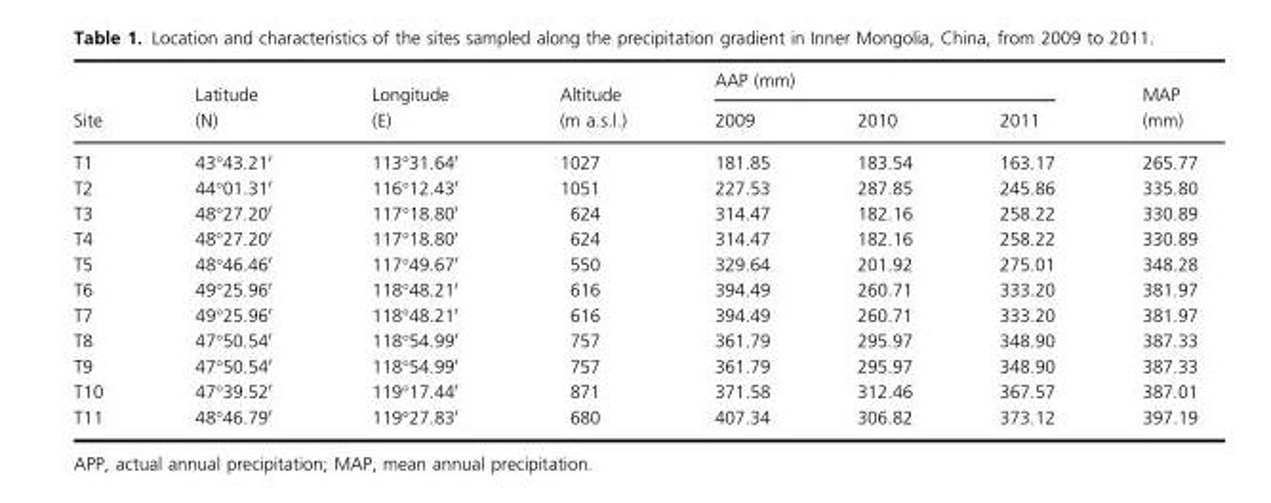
<table><thead><tr><td rowspan="2">Site</td><td rowspan="2">Latitude (N)</td><td rowspan="2">Longitude (E)</td><td rowspan="2">Altitude (m a.s.l.)</td><td colspan="3">AAP (mm)</td><td rowspan="2">MAP (mm)</td></tr><tr><td>2009</td><td>2010</td><td>2011</td></tr></thead><tbody><tr><td>T1</td><td>43°43.21′</td><td>113°31.64′</td><td>1027</td><td>181.85</td><td>183.54</td><td>163.17</td><td>265.77</td></tr><tr><td>T2</td><td>44°01.31′</td><td>116°12.43′</td><td>1051</td><td>227.53</td><td>287.85</td><td>245.86</td><td>335.80</td></tr><tr><td>T3</td><td>48°27.20′</td><td>117°18.80′</td><td>624</td><td>314.47</td><td>182.16</td><td>258.22</td><td>330.89</td></tr><tr><td>T4</td><td>48°27.20′</td><td>117°18.80′</td><td>624</td><td>314.47</td><td>182.16</td><td>258.22</td><td>330.89</td></tr><tr><td>T5</td><td>48°46.46′</td><td>117°49.67′</td><td>550</td><td>329.64</td><td>201.92</td><td>275.01</td><td>348.28</td></tr><tr><td>T6</td><td>49°25.96′</td><td>118°48.21′</td><td>616</td><td>394.49</td><td>260.71</td><td>333.20</td><td>381.97</td></tr><tr><td>T7</td><td>49°25.96′</td><td>118°48.21′</td><td>616</td><td>394.49</td><td>260.71</td><td>333.20</td><td>381.97</td></tr><tr><td>T8</td><td>47°50.54′</td><td>118°54.99′</td><td>757</td><td>361.79</td><td>295.97</td><td>348.90</td><td>387.33</td></tr><tr><td>T9</td><td>47°50.54′</td><td>118°54.99′</td><td>757</td><td>361.79</td><td>295.97</td><td>348.90</td><td>387.33</td></tr><tr><td>T10</td><td>47°39.52′</td><td>119°17.44′</td><td>871</td><td>371.58</td><td>312.46</td><td>367.57</td><td>387.01</td></tr><tr><td>T11</td><td>48°46.79′</td><td>119°27.83′</td><td>680</td><td>407.34</td><td>306.82</td><td>373.12</td><td>397.19</td></tr></tbody></table>